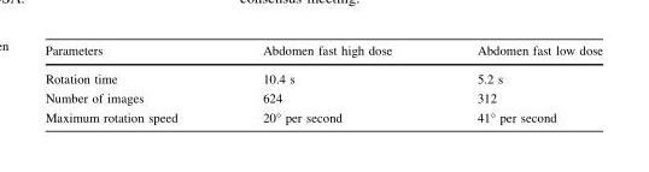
<table><thead><tr><td>Parameters</td><td>Abdomen fast high dose</td><td>Abdomen fast low dose</td></tr></thead><tbody><tr><td>Rotation time</td><td>10.4 s</td><td>5.2 s</td></tr><tr><td>Number of images</td><td>624</td><td>312</td></tr><tr><td>Maximum rotation speed</td><td>20° per second</td><td>41° per second</td></tr></tbody></table>